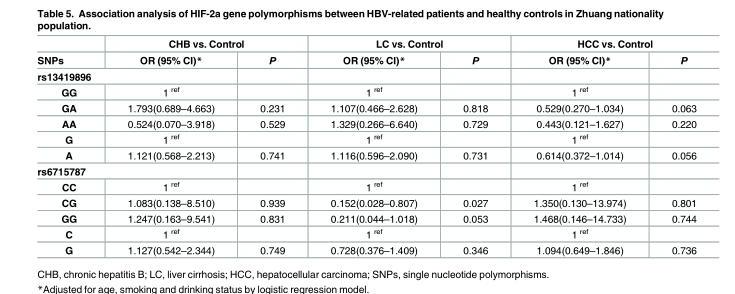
<table><thead><tr><td rowspan="2">SNPs</td><td colspan="2">CHB vs. Control</td><td colspan="2">LC vs. Control</td><td colspan="2">HCC vs. Control</td></tr><tr><td>OR (95% CI)*</td><td>P</td><td>OR (95% CI)*</td><td>P</td><td>OR (95% CI)*</td><td>P</td></tr></thead><tbody><tr><td colspan="7">rs13419896</td></tr><tr><td>GG</td><td>1 <sup>ref</sup></td><td></td><td>1 <sup>ref</sup></td><td></td><td>1 <sup>ref</sup></td><td></td></tr><tr><td>GA</td><td>1.793(0.689–4.663)</td><td>0.231</td><td>1.107(0.466–2.628)</td><td>0.818</td><td>0.529(0.270–1.034)</td><td>0.063</td></tr><tr><td>AA</td><td>0.524(0.070–3.918)</td><td>0.529</td><td>1.329(0.266–6.640)</td><td>0.729</td><td>0.443(0.121–1.627)</td><td>0.220</td></tr><tr><td>G</td><td>1 <sup>ref</sup></td><td></td><td>1 <sup>ref</sup></td><td></td><td>1 <sup>ref</sup></td><td></td></tr><tr><td>A</td><td>1.121(0.568–2.213)</td><td>0.741</td><td>1.116(0.596–2.090)</td><td>0.731</td><td>0.614(0.372–1.014)</td><td>0.056</td></tr><tr><td colspan="7">rs6715787</td></tr><tr><td>CC</td><td>1 <sup>ref</sup></td><td></td><td>1 <sup>ref</sup></td><td></td><td>1 <sup>ref</sup></td><td></td></tr><tr><td>CG</td><td>1.083(0.138–8.510)</td><td>0.939</td><td>0.152(0.028–0.807)</td><td>0.027</td><td>1.350(0.130–13.974)</td><td>0.801</td></tr><tr><td>GG</td><td>1.247(0.163–9.541)</td><td>0.831</td><td>0.211(0.044–1.018)</td><td>0.053</td><td>1.468(0.146–14.733)</td><td>0.744</td></tr><tr><td>C</td><td>1 <sup>ref</sup></td><td></td><td>1 <sup>ref</sup></td><td></td><td>1 <sup>ref</sup></td><td></td></tr><tr><td>G</td><td>1.127(0.542–2.344)</td><td>0.749</td><td>0.728(0.376–1.409)</td><td>0.346</td><td>1.094(0.649–1.846)</td><td>0.736</td></tr></tbody></table>